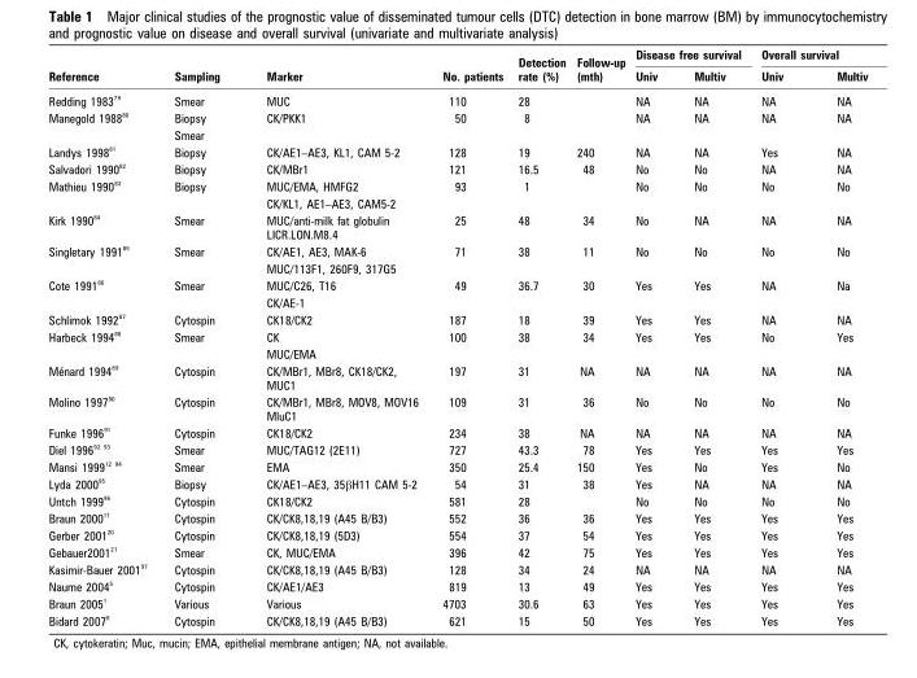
<table><thead><tr><td rowspan="2">Reference</td><td rowspan="2">Sampling</td><td rowspan="2">Marker</td><td rowspan="2">No. patients</td><td rowspan="2">Detection rate (%)</td><td rowspan="2">Follow-up (mth)</td><td colspan="2">Disease free survival</td><td colspan="2">Overall survival</td></tr><tr><td>Univ</td><td>Multiv</td><td>Univ</td><td>Multiv</td></tr></thead><tbody><tr><td>Redding 1983 <sup>79</sup></td><td>Smear</td><td>MUC</td><td>110</td><td>28</td><td></td><td>NA</td><td>NA</td><td>NA</td><td>NA</td></tr><tr><td rowspan="2">Manegold 1988 <sup>80</sup></td><td>Biopsy</td><td rowspan="2">CK/PKK1</td><td rowspan="2">50</td><td rowspan="2">8</td><td rowspan="2"></td><td rowspan="2">NA</td><td rowspan="2">NA</td><td rowspan="2">NA</td><td rowspan="2">NA</td></tr><tr><td>Smear</td></tr><tr><td>Landys 1998 <sup>81</sup></td><td>Biopsy</td><td>CK/AE1–AE3, KL1, CAM 5-2</td><td>128</td><td>19</td><td>240</td><td>NA</td><td>NA</td><td>Yes</td><td>NA</td></tr><tr><td>Salvadori 1990 <sup>82</sup></td><td>Biopsy</td><td>CK/MBr1</td><td>121</td><td>16.5</td><td>48</td><td>No</td><td>No</td><td>NA</td><td>NA</td></tr><tr><td rowspan="2">Mathieu 1990 <sup>83</sup></td><td rowspan="2">Biopsy</td><td>MUC/EMA, HMFG2</td><td rowspan="2">93</td><td rowspan="2">1</td><td rowspan="2"></td><td rowspan="2">No</td><td rowspan="2">No</td><td rowspan="2">No</td><td rowspan="2">No</td></tr><tr><td>CK/KL1, AE1–AE3, CAM5-2</td></tr><tr><td>Kirk 1990 <sup>84</sup></td><td>Smear</td><td>MUC/anti-milk fat globulin LICR.LON.M8.4</td><td>25</td><td>48</td><td>34</td><td>No</td><td>NA</td><td>NA</td><td>NA</td></tr><tr><td rowspan="2">Singletary 1991 <sup>85</sup></td><td rowspan="2">Smear</td><td>CK/AE1, AE3, MAK-6</td><td rowspan="2">71</td><td rowspan="2">38</td><td rowspan="2">11</td><td rowspan="2">No</td><td rowspan="2">No</td><td rowspan="2">No</td><td rowspan="2">No</td></tr><tr><td>MUC/113F1, 260F9, 317G5</td></tr><tr><td rowspan="2">Cote 1991 <sup>86</sup></td><td rowspan="2">Smear</td><td>MUC/C26, T16</td><td rowspan="2">49</td><td rowspan="2">36.7</td><td rowspan="2">30</td><td rowspan="2">Yes</td><td rowspan="2">Yes</td><td rowspan="2">NA</td><td rowspan="2">Na</td></tr><tr><td>CK/AE-1</td></tr><tr><td>Schlimok 1992 <sup>87</sup></td><td>Cytospin</td><td>CK18/CK2</td><td>187</td><td>18</td><td>39</td><td>Yes</td><td>Yes</td><td>NA</td><td>NA</td></tr><tr><td rowspan="2">Harbeck 1994 <sup>88</sup></td><td rowspan="2">Smear</td><td>CK</td><td rowspan="2">100</td><td rowspan="2">38</td><td rowspan="2">34</td><td rowspan="2">Yes</td><td rowspan="2">Yes</td><td rowspan="2">No</td><td rowspan="2">Yes</td></tr><tr><td>MUC/EMA</td></tr><tr><td>Me´nard 1994 89</td><td>Cytospin</td><td>CK/MBr1, MBr8, CK18/CK2, MUC1</td><td>197</td><td>31</td><td>NA</td><td>NA</td><td>NA</td><td>NA</td><td>NA</td></tr><tr><td>Molino 1997 <sup>90</sup></td><td>Cytospin</td><td>CK/MBr1, MBr8, MOV8, MOV16 MluC1</td><td>109</td><td>31</td><td>36</td><td>No</td><td>No</td><td>No</td><td>No</td></tr><tr><td>Funke 1996 <sup>91</sup></td><td>Cytospin</td><td>CK18/CK2</td><td>234</td><td>38</td><td>NA</td><td>NA</td><td>NA</td><td>NA</td><td>NA</td></tr><tr><td>Diel 1996 92 93</td><td>Smear</td><td>MUC/TAG12 (2E11)</td><td>727</td><td>43.3</td><td>78</td><td>Yes</td><td>Yes</td><td>Yes</td><td>Yes</td></tr><tr><td>Mansi 1999 12 94</td><td>Smear</td><td>EMA</td><td>350</td><td>25.4</td><td>150</td><td>Yes</td><td>No</td><td>Yes</td><td>No</td></tr><tr><td>Lyda 2000 <sup>95</sup></td><td>Biopsy</td><td>CK/AE1–AE3, 35βH11 CAM 5-2</td><td>54</td><td>31</td><td>38</td><td>Yes</td><td>NA</td><td>NA</td><td>NA</td></tr><tr><td>Untch 1999 <sup>96</sup></td><td>Cytospin</td><td>CK18/CK2</td><td>581</td><td>28</td><td></td><td>No</td><td>No</td><td>No</td><td>No</td></tr><tr><td>Braun 2000 <sup>11</sup></td><td>Cytospin</td><td>CK/CK8,18,19 (A45 B/B3)</td><td>552</td><td>36</td><td>36</td><td>Yes</td><td>Yes</td><td>Yes</td><td>Yes</td></tr><tr><td>Gerber 2001 <sup>20</sup></td><td>Cytospin</td><td>CK/CK8,18,19 (5D3)</td><td>554</td><td>37</td><td>54</td><td>Yes</td><td>Yes</td><td>Yes</td><td>Yes</td></tr><tr><td>Gebauer2001 <sup>21</sup></td><td>Smear</td><td>CK, MUC/EMA</td><td>396</td><td>42</td><td>75</td><td>Yes</td><td>Yes</td><td>Yes</td><td>Yes</td></tr><tr><td>Kasimir-Bauer 2001 <sup>97</sup></td><td>Cytospin</td><td>CK/CK8,18,19 (A45 B/B3)</td><td>128</td><td>34</td><td>24</td><td>NA</td><td>NA</td><td>NA</td><td>NA</td></tr><tr><td>Naume 2004 <sup>5</sup></td><td>Cytospin</td><td>CK/AE1/AE3</td><td>819</td><td>13</td><td>49</td><td>Yes</td><td>Yes</td><td>Yes</td><td>Yes</td></tr><tr><td>Braun 2005 <sup>1</sup></td><td>Various</td><td>Various</td><td>4703</td><td>30.6</td><td>63</td><td>Yes</td><td>Yes</td><td>Yes</td><td>Yes</td></tr><tr><td>Bidard 2007 <sup>8</sup></td><td>Cytospin</td><td>CK/CK8,18,19 (A45 B/B3)</td><td>621</td><td>15</td><td>50</td><td>Yes</td><td>Yes</td><td>Yes</td><td>Yes</td></tr></tbody></table>